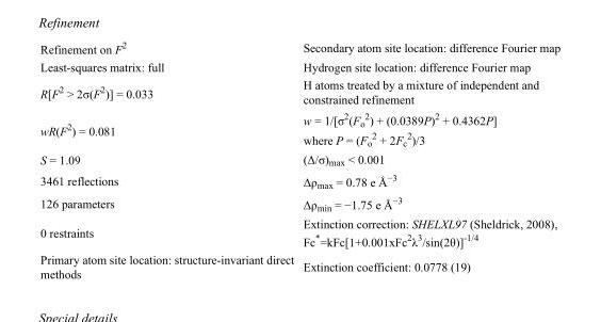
<table><tbody><tr><td>Refinement on F<sup>2</sup></td><td>Secondary atom site location: difference Fourier map</td></tr><tr><td>Least-squares matrix: full</td><td>Hydrogen site location: difference Fourier map</td></tr><tr><td>R[F<sup>2</sup> &gt; 2σ(F<sup>2</sup>)] = 0.033</td><td>H atoms treated by a mixture of independent and constrained refinement</td></tr><tr><td>wR(F<sup>2</sup>) = 0.081</td><td>w = 1/[σ<sup>2</sup>(F<sub>o</sub> <sup>2</sup>) + (0.0389P)<sup>2</sup> + 0.4362P] where P = (F<sub>o</sub> <sup>2</sup> + 2F<sub>c</sub> <sup>2</sup>)/3</td></tr><tr><td>S = 1.09</td><td>(Δ/σ)<sub>max</sub> &lt; 0.001</td></tr><tr><td>3461 reflections</td><td>Δρ<sub>max</sub> = 0.78 e Å<sup>−3</sup></td></tr><tr><td>126 parameters</td><td>Δρ<sub>min</sub> = −1.75 e Å<sup>−3</sup></td></tr><tr><td>0 restraints</td><td>Extinction correction: SHELXL97 (Sheldrick, 2008), Fc*=kFc[1+0.001xFc<sup>2</sup>λ<sup>3</sup>/sin(2θ)]<sup>-1/4</sup></td></tr><tr><td>Primary atom site location: structure-invariant direct methods</td><td>Extinction coefficient: 0.0778 (19)</td></tr></tbody></table>